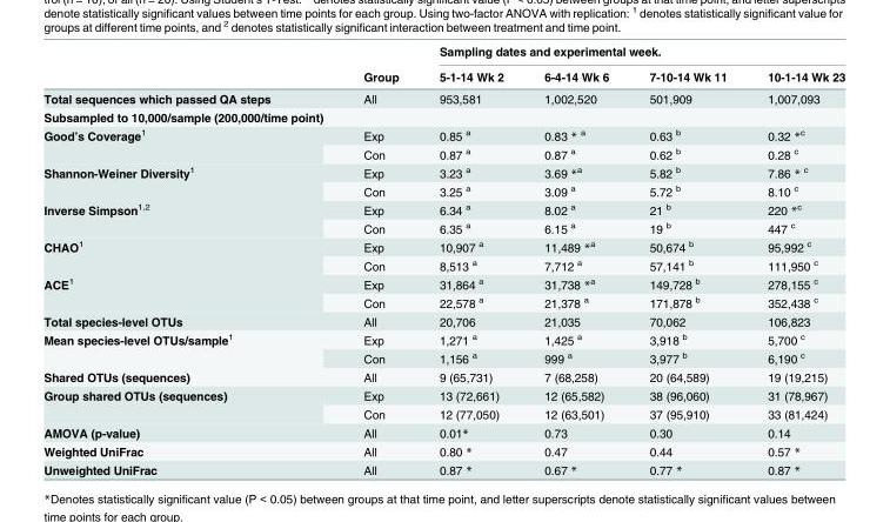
<table><thead><tr><td rowspan="2"></td><td rowspan="2">Group</td><td colspan="4">Sampling dates and experimental week.</td></tr><tr><td>5-1-14 Wk 2</td><td>6-4-14 Wk 6</td><td>7-10-14 Wk 11</td><td>10-1-14 Wk 23</td></tr></thead><tbody><tr><td>Total sequences which passed QA steps</td><td>All</td><td>953,581</td><td>1,002,520</td><td>501,909</td><td>1,007,093</td></tr><tr><td colspan="6">Subsampled to 10,000/sample (200,000/time point)</td></tr><tr><td rowspan="2">Good’s Coverage<sup>1</sup></td><td>Exp</td><td>0.85 <sup>a</sup></td><td>0.83 * <sup>a</sup></td><td>0.63 <sup>b</sup></td><td>0.32 *<sup>c</sup></td></tr><tr><td>Con</td><td>0.87 <sup>a</sup></td><td>0.87 <sup>a</sup></td><td>0.62 <sup>b</sup></td><td>0.28 <sup>c</sup></td></tr><tr><td rowspan="2">Shannon-Weiner Diversity<sup>1</sup></td><td>Exp</td><td>3.23 <sup>a</sup></td><td>3.69 *<sup>a</sup></td><td>5.82 <sup>b</sup></td><td>7.86 * <sup>c</sup></td></tr><tr><td>Con</td><td>3.25 <sup>a</sup></td><td>3.09 <sup>a</sup></td><td>5.72 <sup>b</sup></td><td>8.10 <sup>c</sup></td></tr><tr><td rowspan="2">Inverse Simpson<sup>1,2</sup></td><td>Exp</td><td>6.34 <sup>a</sup></td><td>8.02 <sup>a</sup></td><td>21 <sup>b</sup></td><td>220 *<sup>c</sup></td></tr><tr><td>Con</td><td>6.35 <sup>a</sup></td><td>6.15 <sup>a</sup></td><td>19 <sup>b</sup></td><td>447 <sup>c</sup></td></tr><tr><td rowspan="2">CHAO<sup>1</sup></td><td>Exp</td><td>10,907 <sup>a</sup></td><td>11,489 *<sup>a</sup></td><td>50,674 <sup>b</sup></td><td>95,992 <sup>c</sup></td></tr><tr><td>Con</td><td>8,513 <sup>a</sup></td><td>7,712 <sup>a</sup></td><td>57,141 <sup>b</sup></td><td>111,950 <sup>c</sup></td></tr><tr><td rowspan="2">ACE<sup>1</sup></td><td>Exp</td><td>31,864 <sup>a</sup></td><td>31,738 *<sup>a</sup></td><td>149,728 <sup>b</sup></td><td>278,155 <sup>c</sup></td></tr><tr><td>Con</td><td>22,578 <sup>a</sup></td><td>21,378 <sup>a</sup></td><td>171,878 <sup>b</sup></td><td>352,438 <sup>c</sup></td></tr><tr><td>Total species-level OTUs</td><td>All</td><td>20,706</td><td>21,035</td><td>70,062</td><td>106,823</td></tr><tr><td rowspan="2">Mean species-level OTUs/sample<sup>1</sup></td><td>Exp</td><td>1,271 <sup>a</sup></td><td>1,425 <sup>a</sup></td><td>3,918 <sup>b</sup></td><td>5,700 <sup>c</sup></td></tr><tr><td>Con</td><td>1,156 <sup>a</sup></td><td>999 <sup>a</sup></td><td>3,977 <sup>b</sup></td><td>6,190 <sup>c</sup></td></tr><tr><td>Shared OTUs (sequences)</td><td>All</td><td>9 (65,731)</td><td>7 (68,258)</td><td>20 (64,589)</td><td>19 (19,215)</td></tr><tr><td rowspan="2">Group shared OTUs (sequences)</td><td>Exp</td><td>13 (72,661)</td><td>12 (65,582)</td><td>38 (96,060)</td><td>31 (78,967)</td></tr><tr><td>Con</td><td>12 (77,050)</td><td>12 (63,501)</td><td>37 (95,910)</td><td>33 (81,424)</td></tr><tr><td>AMOVA (p-value)</td><td>All</td><td>0.01*</td><td>0.73</td><td>0.30</td><td>0.14</td></tr><tr><td>Weighted UniFrac</td><td>All</td><td>0.80 *</td><td>0.47</td><td>0.44</td><td>0.57 *</td></tr><tr><td>Unweighted UniFrac</td><td>All</td><td>0.87 *</td><td>0.67 *</td><td>0.77 *</td><td>0.87 *</td></tr></tbody></table>